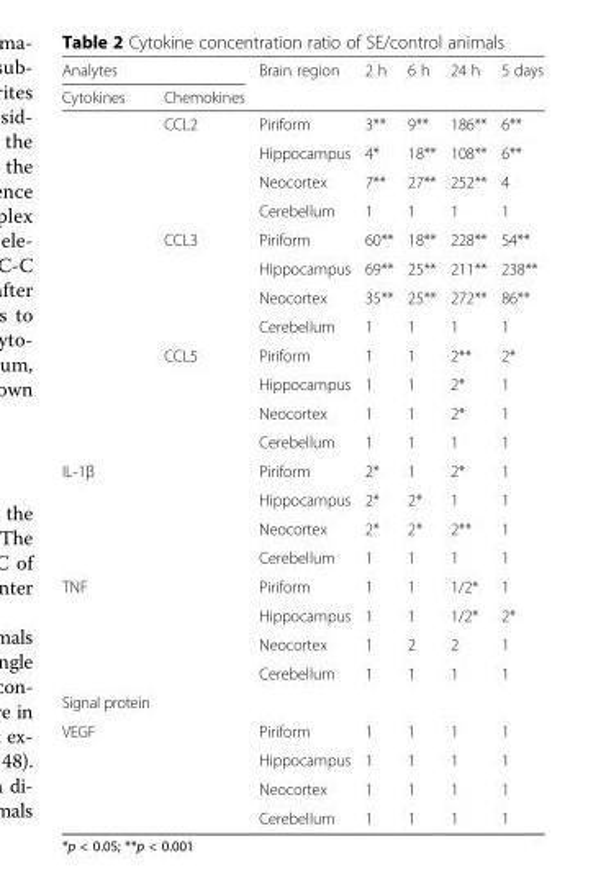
<table><thead><tr><td colspan="2">Analytes</td><td rowspan="2">Brain region</td><td rowspan="2">2 h</td><td rowspan="2">6 h</td><td rowspan="2">24 h</td><td rowspan="2">5 days</td></tr><tr><td>Cytokines</td><td>Chemokines</td></tr></thead><tbody><tr><td rowspan="12"></td><td rowspan="4">CCL2</td><td>Piriform</td><td>3**</td><td>9**</td><td>186**</td><td>6**</td></tr><tr><td>Hippocampus</td><td>4*</td><td>18**</td><td>108**</td><td>6**</td></tr><tr><td>Neocortex</td><td>7**</td><td>27**</td><td>252**</td><td>4</td></tr><tr><td>Cerebellum</td><td>1</td><td>1</td><td>1</td><td>1</td></tr><tr><td rowspan="4">CCL3</td><td>Piriform</td><td>60**</td><td>18**</td><td>228**</td><td>54**</td></tr><tr><td>Hippocampus</td><td>69**</td><td>25**</td><td>211**</td><td>238**</td></tr><tr><td>Neocortex</td><td>35**</td><td>25**</td><td>272**</td><td>86**</td></tr><tr><td>Cerebellum</td><td>1</td><td>1</td><td>1</td><td>1</td></tr><tr><td rowspan="4">CCL5</td><td>Piriform</td><td>1</td><td>1</td><td>2**</td><td>2*</td></tr><tr><td>Hippocampus</td><td>1</td><td>1</td><td>2*</td><td>1</td></tr><tr><td>Neocortex</td><td>1</td><td>1</td><td>2*</td><td>1</td></tr><tr><td>Cerebellum</td><td>1</td><td>1</td><td>1</td><td>1</td></tr><tr><td rowspan="4">IL-1β</td><td></td><td>Piriform</td><td>2*</td><td>1</td><td>2*</td><td>1</td></tr><tr><td></td><td>Hippocampus</td><td>2*</td><td>2*</td><td>1</td><td>1</td></tr><tr><td></td><td>Neocortex</td><td>2*</td><td>2*</td><td>2**</td><td>1</td></tr><tr><td></td><td>Cerebellum</td><td>1</td><td>1</td><td>1</td><td>1</td></tr><tr><td rowspan="4">TNF</td><td></td><td>Piriform</td><td>1</td><td>1</td><td>1/2*</td><td>1</td></tr><tr><td></td><td>Hippocampus</td><td>1</td><td>1</td><td>1/2*</td><td>2*</td></tr><tr><td></td><td>Neocortex</td><td>1</td><td>2</td><td>2</td><td>1</td></tr><tr><td></td><td>Cerebellum</td><td>1</td><td>1</td><td>1</td><td>1</td></tr><tr><td colspan="7">Signal protein</td></tr><tr><td rowspan="4">VEGF</td><td></td><td>Piriform</td><td>1</td><td>1</td><td>1</td><td>1</td></tr><tr><td></td><td>Hippocampus</td><td>1</td><td>1</td><td>1</td><td>1</td></tr><tr><td></td><td>Neocortex</td><td>1</td><td>1</td><td>1</td><td>1</td></tr><tr><td></td><td>Cerebellum</td><td>1</td><td>1</td><td>1</td><td>1</td></tr></tbody></table>